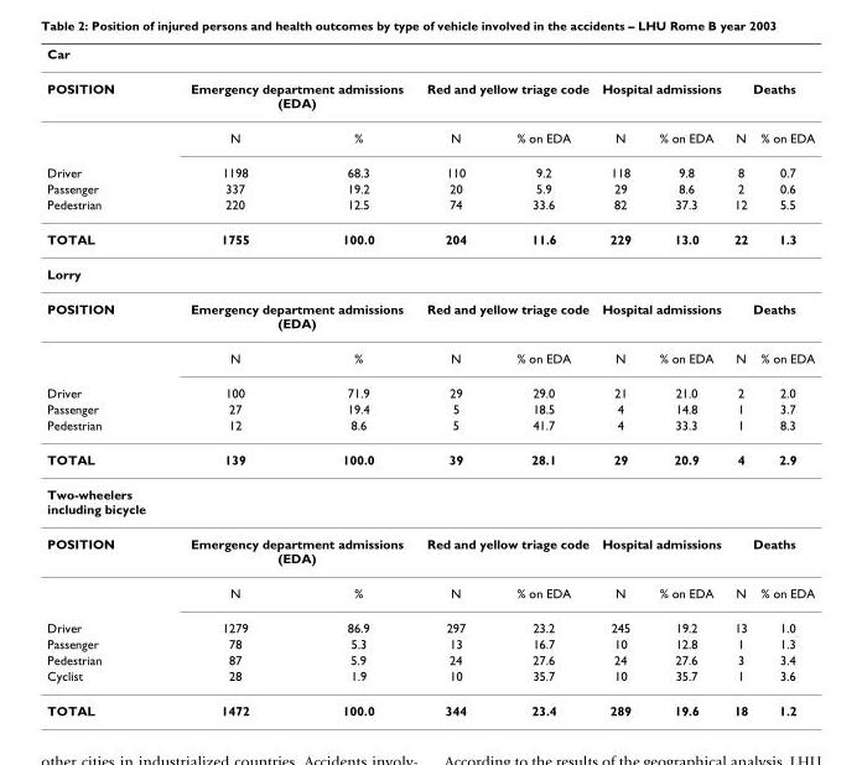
<table><thead><tr><td>Car</td><td></td><td></td><td></td><td></td><td></td><td></td><td></td><td></td></tr></thead><tbody><tr><td rowspan="2">POSITION</td><td colspan="2">Emergency department admissions (EDA)</td><td colspan="2">Red and yellow triage code</td><td colspan="2">Hospital admissions</td><td colspan="2">Deaths</td></tr><tr><td>N</td><td>%</td><td>N</td><td>% on EDA</td><td>N</td><td>% on EDA</td><td>N</td><td>% on EDA</td></tr><tr><td>Driver</td><td>1198</td><td>68.3</td><td>110</td><td>9.2</td><td>118</td><td>9.8</td><td>8</td><td>0.7</td></tr><tr><td>Passenger</td><td>337</td><td>19.2</td><td>20</td><td>5.9</td><td>29</td><td>8.6</td><td>2</td><td>0.6</td></tr><tr><td>Pedestrian</td><td>220</td><td>12.5</td><td>74</td><td>33.6</td><td>82</td><td>37.3</td><td>12</td><td>5.5</td></tr><tr><td>TOTAL</td><td>1755</td><td>100.0</td><td>204</td><td>11.6</td><td>229</td><td>13.0</td><td>22</td><td>1.3</td></tr><tr><td colspan="9">Lorry</td></tr><tr><td rowspan="2">POSITION</td><td colspan="2">Emergency department admissions (EDA)</td><td colspan="2">Red and yellow triage code</td><td colspan="2">Hospital admissions</td><td colspan="2">Deaths</td></tr><tr><td>N</td><td>%</td><td>N</td><td>% on EDA</td><td>N</td><td>% on EDA</td><td>N</td><td>% on EDA</td></tr><tr><td>Driver</td><td>100</td><td>71.9</td><td>29</td><td>29.0</td><td>21</td><td>21.0</td><td>2</td><td>2.0</td></tr><tr><td>Passenger</td><td>27</td><td>19.4</td><td>5</td><td>18.5</td><td>4</td><td>14.8</td><td>1</td><td>3.7</td></tr><tr><td>Pedestrian</td><td>12</td><td>8.6</td><td>5</td><td>41.7</td><td>4</td><td>33.3</td><td>1</td><td>8.3</td></tr><tr><td>TOTAL</td><td>139</td><td>100.0</td><td>39</td><td>28.1</td><td>29</td><td>20.9</td><td>4</td><td>2.9</td></tr><tr><td colspan="9">Two-wheelers including bicycle</td></tr><tr><td rowspan="2">POSITION</td><td colspan="2">Emergency department admissions (EDA)</td><td colspan="2">Red and yellow triage code</td><td colspan="2">Hospital admissions</td><td colspan="2">Deaths</td></tr><tr><td>N</td><td>%</td><td>N</td><td>% on EDA</td><td>N</td><td>% on EDA</td><td>N</td><td>% on EDA</td></tr><tr><td>Driver</td><td>1279</td><td>86.9</td><td>297</td><td>23.2</td><td>245</td><td>19.2</td><td>13</td><td>1.0</td></tr><tr><td>Passenger</td><td>78</td><td>5.3</td><td>13</td><td>16.7</td><td>10</td><td>12.8</td><td>1</td><td>1.3</td></tr><tr><td>Pedestrian</td><td>87</td><td>5.9</td><td>24</td><td>27.6</td><td>24</td><td>27.6</td><td>3</td><td>3.4</td></tr><tr><td>Cyclist</td><td>28</td><td>1.9</td><td>10</td><td>35.7</td><td>10</td><td>35.7</td><td>1</td><td>3.6</td></tr><tr><td>TOTAL</td><td>1472</td><td>100.0</td><td>344</td><td>23.4</td><td>289</td><td>19.6</td><td>18</td><td>1.2</td></tr></tbody></table>